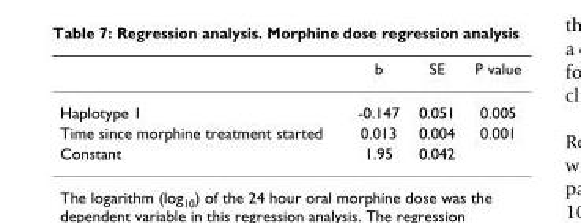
<table><thead><tr><td></td><td>b</td><td>SE</td><td>P value</td></tr></thead><tbody><tr><td>Haplotype 1</td><td>-0.147</td><td>0.051</td><td>0.005</td></tr><tr><td>Time since morphine treatment started</td><td>0.013</td><td>0.004</td><td>0.001</td></tr><tr><td>Constant</td><td>1.95</td><td>0.042</td><td></td></tr></tbody></table>